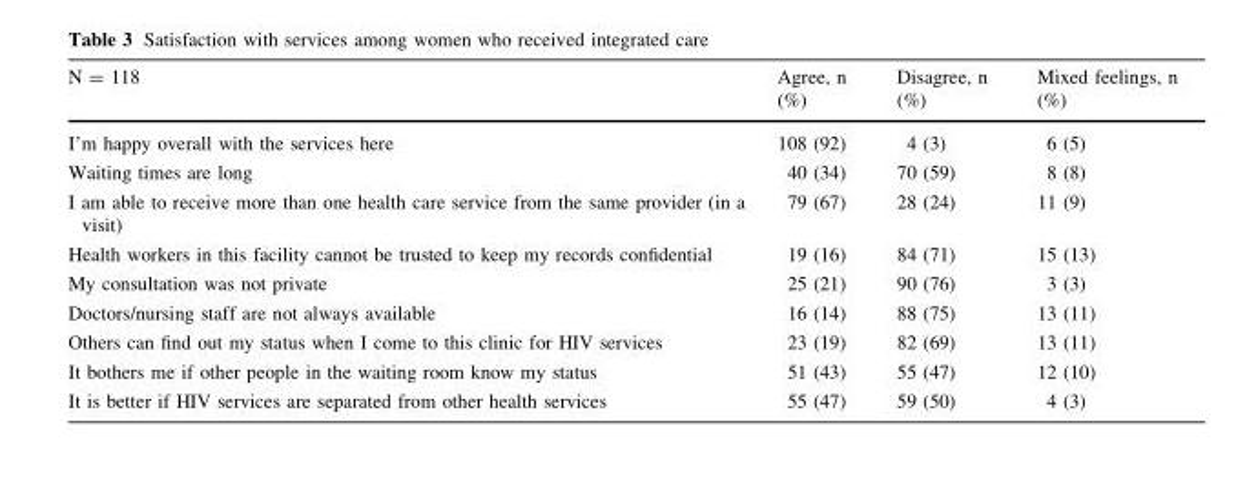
<table><thead><tr><td>N = 118</td><td>Agree, n (%)</td><td>Disagree, n (%)</td><td>Mixed feelings, n (%)</td></tr></thead><tbody><tr><td>I’m happy overall with the services here</td><td>108 (92)</td><td>4 (3)</td><td>6 (5)</td></tr><tr><td>Waiting times are long</td><td>40 (34)</td><td>70 (59)</td><td>8 (8)</td></tr><tr><td>I am able to receive more than one health care service from the same provider (in a visit)</td><td>79 (67)</td><td>28 (24)</td><td>11 (9)</td></tr><tr><td>Health workers in this facility cannot be trusted to keep my records confidential</td><td>19 (16)</td><td>84 (71)</td><td>15 (13)</td></tr><tr><td>My consultation was not private</td><td>25 (21)</td><td>90 (76)</td><td>3 (3)</td></tr><tr><td>Doctors/nursing staff are not always available</td><td>16 (14)</td><td>88 (75)</td><td>13 (11)</td></tr><tr><td>Others can find out my status when I come to this clinic for HIV services</td><td>23 (19)</td><td>82 (69)</td><td>13 (11)</td></tr><tr><td>It bothers me if other people in the waiting room know my status</td><td>51 (43)</td><td>55 (47)</td><td>12 (10)</td></tr><tr><td>It is better if HIV services are separated from other health services</td><td>55 (47)</td><td>59 (50)</td><td>4 (3)</td></tr></tbody></table>